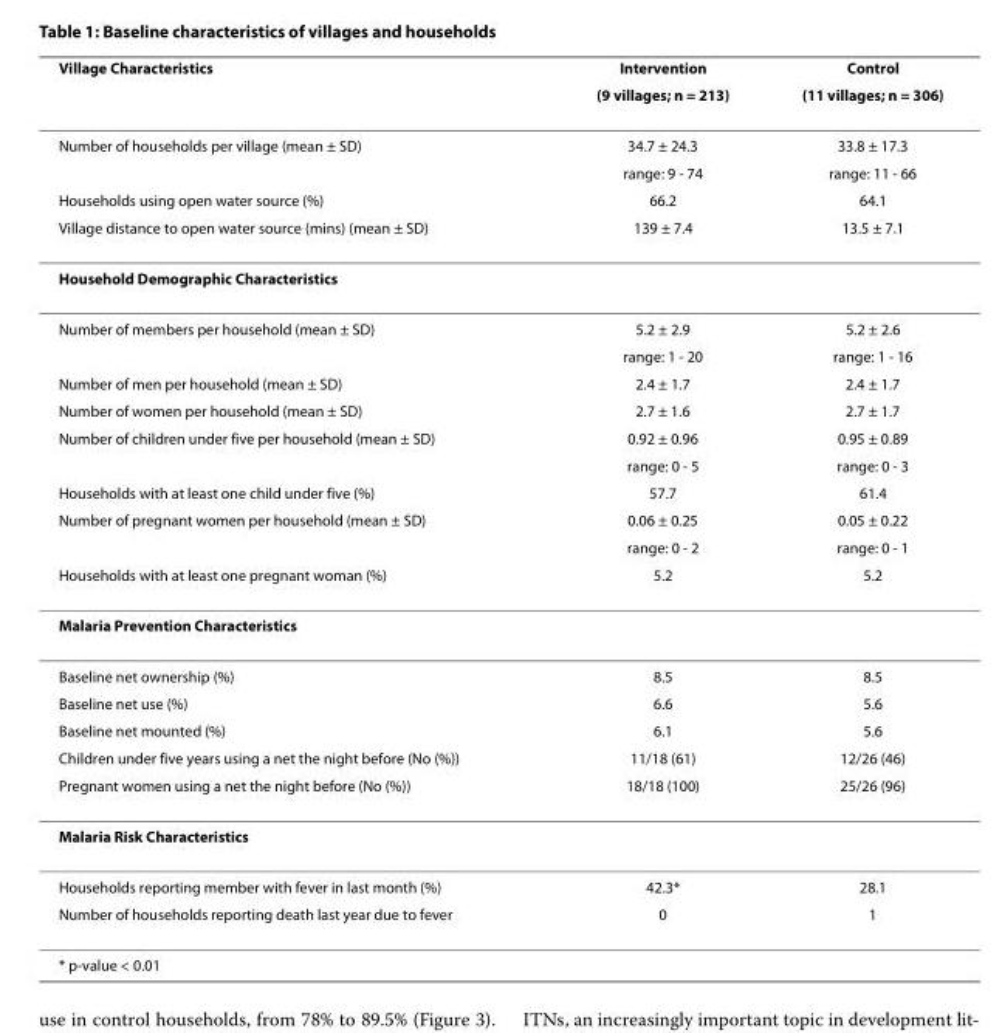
<table><thead><tr><td rowspan="2">Village Characteristics</td><td rowspan="2">Intervention (9 villages; n = 213)</td><td rowspan="2">Control (11 villages; n = 306)</td></tr><tr></tr></thead><tbody><tr><td rowspan="2">Number of households per village (mean ± SD)</td><td>34.7 ± 24.3</td><td>33.8 ± 17.3</td></tr><tr><td>range: 9 - 74</td><td>range: 11 - 66</td></tr><tr><td>Households using open water source (%)</td><td>66.2</td><td>64.1</td></tr><tr><td>Village distance to open water source (mins) (mean ± SD)</td><td>139 ± 7.4</td><td>13.5 ± 7.1</td></tr><tr><td colspan="3">Household Demographic Characteristics</td></tr><tr><td rowspan="2">Number of members per household (mean ± SD)</td><td>5.2 ± 2.9</td><td>5.2 ± 2.6</td></tr><tr><td>range: 1 - 20</td><td>range: 1 - 16</td></tr><tr><td>Number of men per household (mean ± SD)</td><td>2.4 ± 1.7</td><td>2.4 ± 1.7</td></tr><tr><td>Number of women per household (mean ± SD)</td><td>2.7 ± 1.6</td><td>2.7 ± 1.7</td></tr><tr><td rowspan="2">Number of children under five per household (mean ± SD)</td><td>0.92 ± 0.96</td><td>0.95 ± 0.89</td></tr><tr><td>range: 0 - 5</td><td>range: 0 - 3</td></tr><tr><td>Households with at least one child under five (%)</td><td>57.7</td><td>61.4</td></tr><tr><td rowspan="2">Number of pregnant women per household (mean ± SD)</td><td>0.06 ± 0.25</td><td>0.05 ± 0.22</td></tr><tr><td>range: 0 - 2</td><td>range: 0 - 1</td></tr><tr><td>Households with at least one pregnant woman (%)</td><td>5.2</td><td>5.2</td></tr><tr><td colspan="3">Malaria Prevention Characteristics</td></tr><tr><td>Baseline net ownership (%)</td><td>8.5</td><td>8.5</td></tr><tr><td>Baseline net use (%)</td><td>6.6</td><td>5.6</td></tr><tr><td>Baseline net mounted (%)</td><td>6.1</td><td>5.6</td></tr><tr><td>Children under five years using a net the night before (No (%))</td><td>11/18 (61)</td><td>12/26 (46)</td></tr><tr><td>Pregnant women using a net the night before (No (%))</td><td>18/18 (100)</td><td>25/26 (96)</td></tr><tr><td colspan="3">Malaria Risk Characteristics</td></tr><tr><td>Households reporting member with fever in last month (%)</td><td>42.3*</td><td>28.1</td></tr><tr><td>Number of households reporting death last year due to fever</td><td>0</td><td>1</td></tr><tr><td colspan="3">* p-value &lt; 0.01</td></tr></tbody></table>